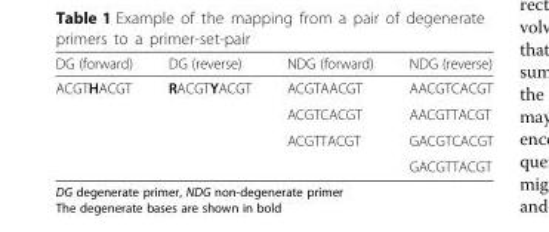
<table><thead><tr><td>DG (forward)</td><td>DG (reverse)</td><td>NDG (forward)</td><td>NDG (reverse)</td></tr></thead><tbody><tr><td>ACGTHACGT</td><td>RACGTYACGT</td><td>ACGTAACGT</td><td>AACGTCACGT</td></tr><tr><td rowspan="3" colspan="2"></td><td>ACGTCACGT</td><td>AACGTTACGT</td></tr><tr><td rowspan="2">ACGTTACGT</td><td>GACGTCACGT</td></tr><tr><td>GACGTTACGT</td></tr></tbody></table>